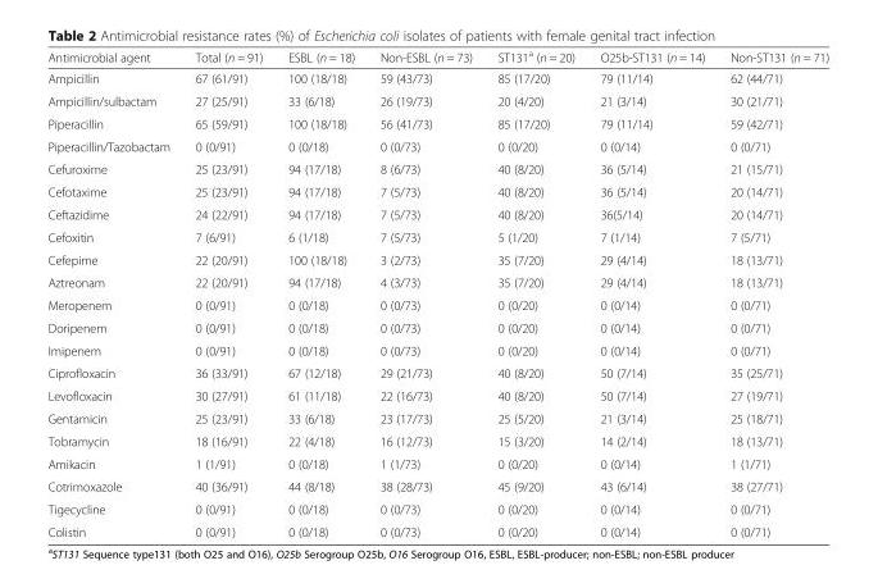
<table><thead><tr><td>Antimicrobial agent</td><td>Total (n = 91)</td><td>ESBL (n = 18)</td><td>Non-ESBL (n = 73)</td><td>ST131<sup>a</sup> (n = 20)</td><td>O25b-ST131 (n = 14)</td><td>Non-ST131 (n = 71)</td></tr></thead><tbody><tr><td>Ampicillin</td><td>67 (61/91)</td><td>100 (18/18)</td><td>59 (43/73)</td><td>85 (17/20)</td><td>79 (11/14)</td><td>62 (44/71)</td></tr><tr><td>Ampicillin/sulbactam</td><td>27 (25/91)</td><td>33 (6/18)</td><td>26 (19/73)</td><td>20 (4/20)</td><td>21 (3/14)</td><td>30 (21/71)</td></tr><tr><td>Piperacillin</td><td>65 (59/91)</td><td>100 (18/18)</td><td>56 (41/73)</td><td>85 (17/20)</td><td>79 (11/14)</td><td>59 (42/71)</td></tr><tr><td>Piperacillin/Tazobactam</td><td>0 (0/91)</td><td>0 (0/18)</td><td>0 (0/73)</td><td>0 (0/20)</td><td>0 (0/14)</td><td>0 (0/71)</td></tr><tr><td>Cefuroxime</td><td>25 (23/91)</td><td>94 (17/18)</td><td>8 (6/73)</td><td>40 (8/20)</td><td>36 (5/14)</td><td>21 (15/71)</td></tr><tr><td>Cefotaxime</td><td>25 (23/91)</td><td>94 (17/18)</td><td>7 (5/73)</td><td>40 (8/20)</td><td>36 (5/14)</td><td>20 (14/71)</td></tr><tr><td>Ceftazidime</td><td>24 (22/91)</td><td>94 (17/18)</td><td>7 (5/73)</td><td>40 (8/20)</td><td>36(5/14)</td><td>20 (14/71)</td></tr><tr><td>Cefoxitin</td><td>7 (6/91)</td><td>6 (1/18)</td><td>7 (5/73)</td><td>5 (1/20)</td><td>7 (1/14)</td><td>7 (5/71)</td></tr><tr><td>Cefepime</td><td>22 (20/91)</td><td>100 (18/18)</td><td>3 (2/73)</td><td>35 (7/20)</td><td>29 (4/14)</td><td>18 (13/71)</td></tr><tr><td>Aztreonam</td><td>22 (20/91)</td><td>94 (17/18)</td><td>4 (3/73)</td><td>35 (7/20)</td><td>29 (4/14)</td><td>18 (13/71)</td></tr><tr><td>Meropenem</td><td>0 (0/91)</td><td>0 (0/18)</td><td>0 (0/73)</td><td>0 (0/20)</td><td>0 (0/14)</td><td>0 (0/71)</td></tr><tr><td>Doripenem</td><td>0 (0/91)</td><td>0 (0/18)</td><td>0 (0/73)</td><td>0 (0/20)</td><td>0 (0/14)</td><td>0 (0/71)</td></tr><tr><td>Imipenem</td><td>0 (0/91)</td><td>0 (0/18)</td><td>0 (0/73)</td><td>0 (0/20)</td><td>0 (0/14)</td><td>0 (0/71)</td></tr><tr><td>Ciprofloxacin</td><td>36 (33/91)</td><td>67 (12/18)</td><td>29 (21/73)</td><td>40 (8/20)</td><td>50 (7/14)</td><td>35 (25/71)</td></tr><tr><td>Levofloxacin</td><td>30 (27/91)</td><td>61 (11/18)</td><td>22 (16/73)</td><td>40 (8/20)</td><td>50 (7/14)</td><td>27 (19/71)</td></tr><tr><td>Gentamicin</td><td>25 (23/91)</td><td>33 (6/18)</td><td>23 (17/73)</td><td>25 (5/20)</td><td>21 (3/14)</td><td>25 (18/71)</td></tr><tr><td>Tobramycin</td><td>18 (16/91)</td><td>22 (4/18)</td><td>16 (12/73)</td><td>15 (3/20)</td><td>14 (2/14)</td><td>18 (13/71)</td></tr><tr><td>Amikacin</td><td>1 (1/91)</td><td>0 (0/18)</td><td>1 (1/73)</td><td>0 (0/20)</td><td>0 (0/14)</td><td>1 (1/71)</td></tr><tr><td>Cotrimoxazole</td><td>40 (36/91)</td><td>44 (8/18)</td><td>38 (28/73)</td><td>45 (9/20)</td><td>43 (6/14)</td><td>38 (27/71)</td></tr><tr><td>Tigecycline</td><td>0 (0/91)</td><td>0 (0/18)</td><td>0 (0/73)</td><td>0 (0/20)</td><td>0 (0/14)</td><td>0 (0/71)</td></tr><tr><td>Colistin</td><td>0 (0/91)</td><td>0 (0/18)</td><td>0 (0/73)</td><td>0 (0/20)</td><td>0 (0/14)</td><td>0 (0/71)</td></tr></tbody></table>